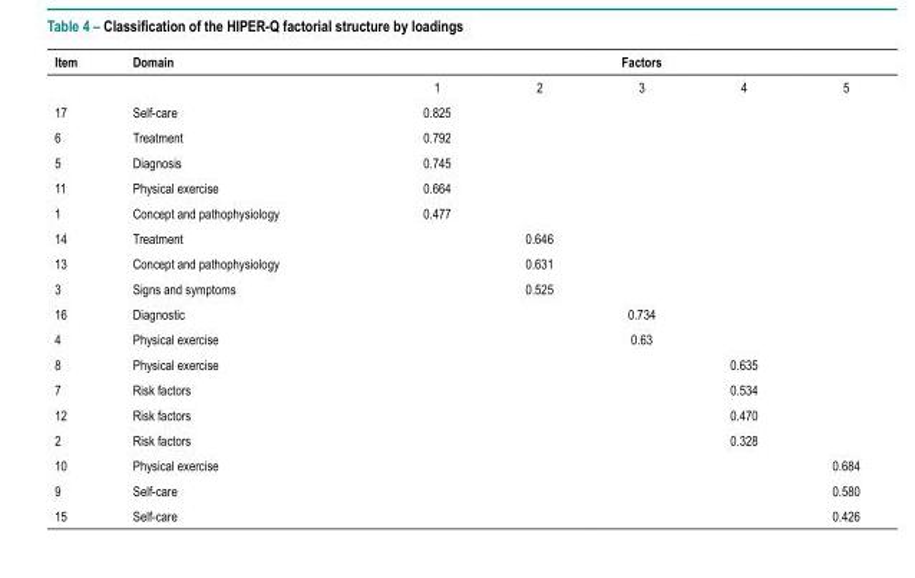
<table><thead><tr><td rowspan="2">Item</td><td rowspan="2">Domain</td><td colspan="5">Factors</td></tr><tr><td>1</td><td>2</td><td>3</td><td>4</td><td>5</td></tr></thead><tbody><tr><td>17</td><td>Self-care</td><td>0.825</td><td></td><td></td><td></td><td></td></tr><tr><td>6</td><td>Treatment</td><td>0.792</td><td></td><td></td><td></td><td></td></tr><tr><td>5</td><td>Diagnosis</td><td>0.745</td><td></td><td></td><td></td><td></td></tr><tr><td>11</td><td>Physical exercise</td><td>0.664</td><td></td><td></td><td></td><td></td></tr><tr><td>1</td><td>Concept and pathophysiology</td><td>0.477</td><td></td><td></td><td></td><td></td></tr><tr><td>14</td><td>Treatment</td><td></td><td>0.646</td><td></td><td></td><td></td></tr><tr><td>13</td><td>Concept and pathophysiology</td><td></td><td>0.631</td><td></td><td></td><td></td></tr><tr><td>3</td><td>Signs and symptoms</td><td></td><td>0.525</td><td></td><td></td><td></td></tr><tr><td>16</td><td>Diagnostic</td><td></td><td></td><td>0.734</td><td></td><td></td></tr><tr><td>4</td><td>Physical exercise</td><td></td><td></td><td>0.63</td><td></td><td></td></tr><tr><td>8</td><td>Physical exercise</td><td></td><td></td><td></td><td>0.635</td><td></td></tr><tr><td>7</td><td>Risk factors</td><td></td><td></td><td></td><td>0.534</td><td></td></tr><tr><td>12</td><td>Risk factors</td><td></td><td></td><td></td><td>0.470</td><td></td></tr><tr><td>2</td><td>Risk factors</td><td></td><td></td><td></td><td>0.328</td><td></td></tr><tr><td>10</td><td>Physical exercise</td><td></td><td></td><td></td><td></td><td>0.684</td></tr><tr><td>9</td><td>Self-care</td><td></td><td></td><td></td><td></td><td>0.580</td></tr><tr><td>15</td><td>Self-care</td><td></td><td></td><td></td><td></td><td>0.426</td></tr></tbody></table>